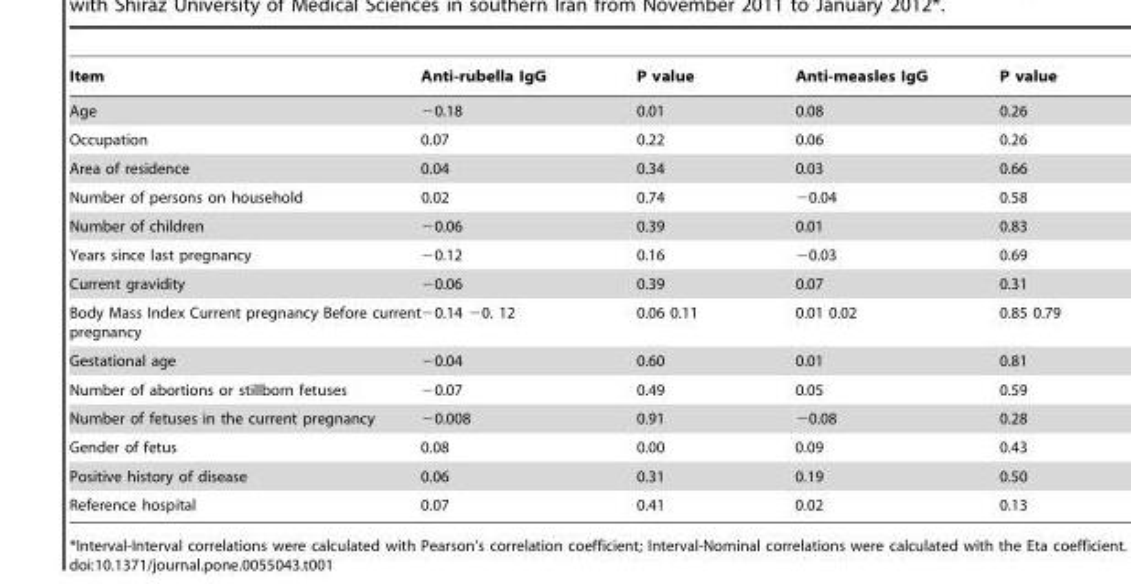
<table><thead><tr><td>Item</td><td>Anti-rubella IgG</td><td>P value</td><td>Anti-measles IgG</td><td>P value</td></tr></thead><tbody><tr><td>Age</td><td>−0.18</td><td>0.01</td><td>0.08</td><td>0.26</td></tr><tr><td>Occupation</td><td>0.07</td><td>0.22</td><td>0.06</td><td>0.26</td></tr><tr><td>Area of residence</td><td>0.04</td><td>0.34</td><td>0.03</td><td>0.66</td></tr><tr><td>Number of persons on household</td><td>0.02</td><td>0.74</td><td>−0.04</td><td>0.58</td></tr><tr><td>Number of children</td><td>−0.06</td><td>0.39</td><td>0.01</td><td>0.83</td></tr><tr><td>Years since last pregnancy</td><td>−0.12</td><td>0.16</td><td>−0.03</td><td>0.69</td></tr><tr><td>Current gravidity</td><td>−0.06</td><td>0.39</td><td>0.07</td><td>0.31</td></tr><tr><td>Body Mass Index Current pregnancy Before current pregnancy</td><td>−0.14 −0. 12</td><td>0.06 0.11</td><td>0.01 0.02</td><td>0.85 0.79</td></tr><tr><td>Gestational age</td><td>−0.04</td><td>0.60</td><td>0.01</td><td>0.81</td></tr><tr><td>Number of abortions or stillborn fetuses</td><td>−0.07</td><td>0.49</td><td>0.05</td><td>0.59</td></tr><tr><td>Number of fetuses in the current pregnancy</td><td>−0.008</td><td>0.91</td><td>−0.08</td><td>0.28</td></tr><tr><td>Gender of fetus</td><td>0.08</td><td>0.00</td><td>0.09</td><td>0.43</td></tr><tr><td>Positive history of disease</td><td>0.06</td><td>0.31</td><td>0.19</td><td>0.50</td></tr><tr><td>Reference hospital</td><td>0.07</td><td>0.41</td><td>0.02</td><td>0.13</td></tr></tbody></table>